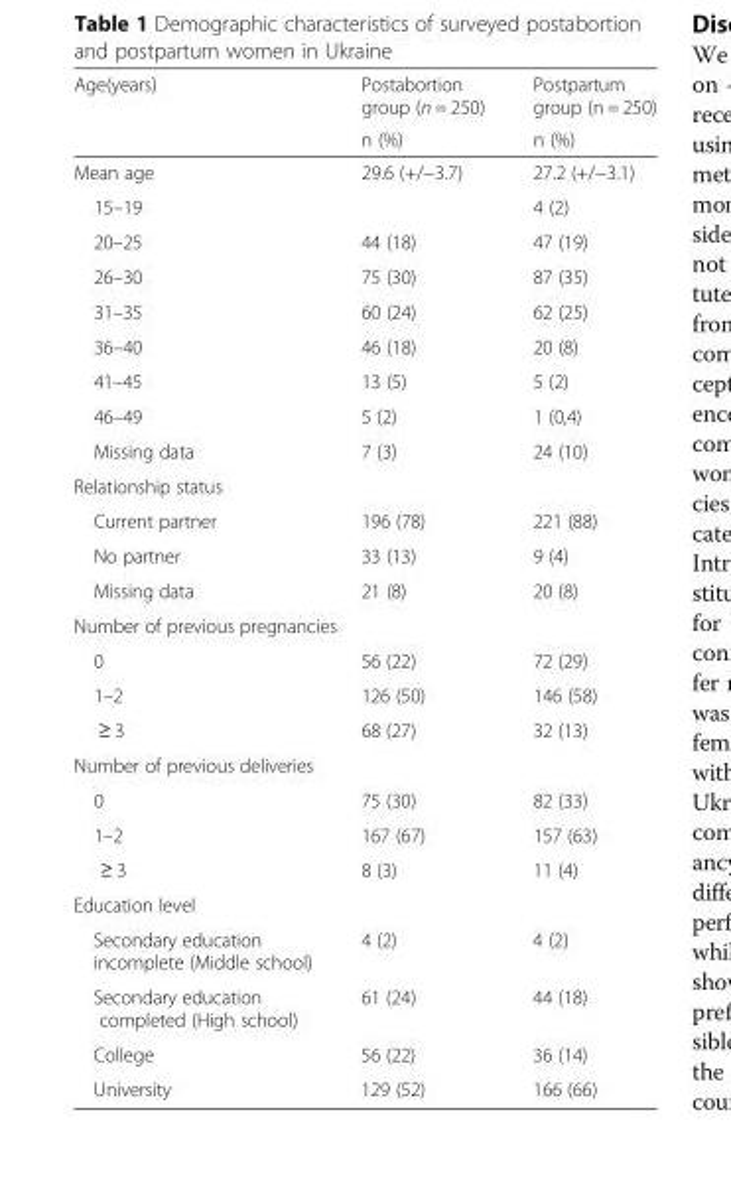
<table><thead><tr><td rowspan="2">Age(years)</td><td rowspan="2">Postabortion group (n = 250) n (%)</td><td rowspan="2">Postpartum group (n = 250) n (%)</td></tr><tr></tr></thead><tbody><tr><td>Mean age</td><td>29.6 (+/−3.7)</td><td>27.2 (+/−3.1)</td></tr><tr><td>15–19</td><td></td><td>4 (2)</td></tr><tr><td>20–25</td><td>44 (18)</td><td>47 (19)</td></tr><tr><td>26–30</td><td>75 (30)</td><td>87 (35)</td></tr><tr><td>31–35</td><td>60 (24)</td><td>62 (25)</td></tr><tr><td>36–40</td><td>46 (18)</td><td>20 (8)</td></tr><tr><td>41–45</td><td>13 (5)</td><td>5 (2)</td></tr><tr><td>46–49</td><td>5 (2)</td><td>1 (0,4)</td></tr><tr><td>Missing data</td><td>7 (3)</td><td>24 (10)</td></tr><tr><td colspan="3">Relationship status</td></tr><tr><td>Current partner</td><td>196 (78)</td><td>221 (88)</td></tr><tr><td>No partner</td><td>33 (13)</td><td>9 (4)</td></tr><tr><td>Missing data</td><td>21 (8)</td><td>20 (8)</td></tr><tr><td colspan="3">Number of previous pregnancies</td></tr><tr><td>0</td><td>56 (22)</td><td>72 (29)</td></tr><tr><td>1–2</td><td>126 (50)</td><td>146 (58)</td></tr><tr><td>≥ 3</td><td>68 (27)</td><td>32 (13)</td></tr><tr><td colspan="3">Number of previous deliveries</td></tr><tr><td>0</td><td>75 (30)</td><td>82 (33)</td></tr><tr><td>1–2</td><td>167 (67)</td><td>157 (63)</td></tr><tr><td>≥ 3</td><td>8 (3)</td><td>11 (4)</td></tr><tr><td colspan="3">Education level</td></tr><tr><td>Secondary education incomplete (Middle school)</td><td>4 (2)</td><td>4 (2)</td></tr><tr><td>Secondary education completed (High school)</td><td>61 (24)</td><td>44 (18)</td></tr><tr><td>College</td><td>56 (22)</td><td>36 (14)</td></tr><tr><td>University</td><td>129 (52)</td><td>166 (66)</td></tr></tbody></table>